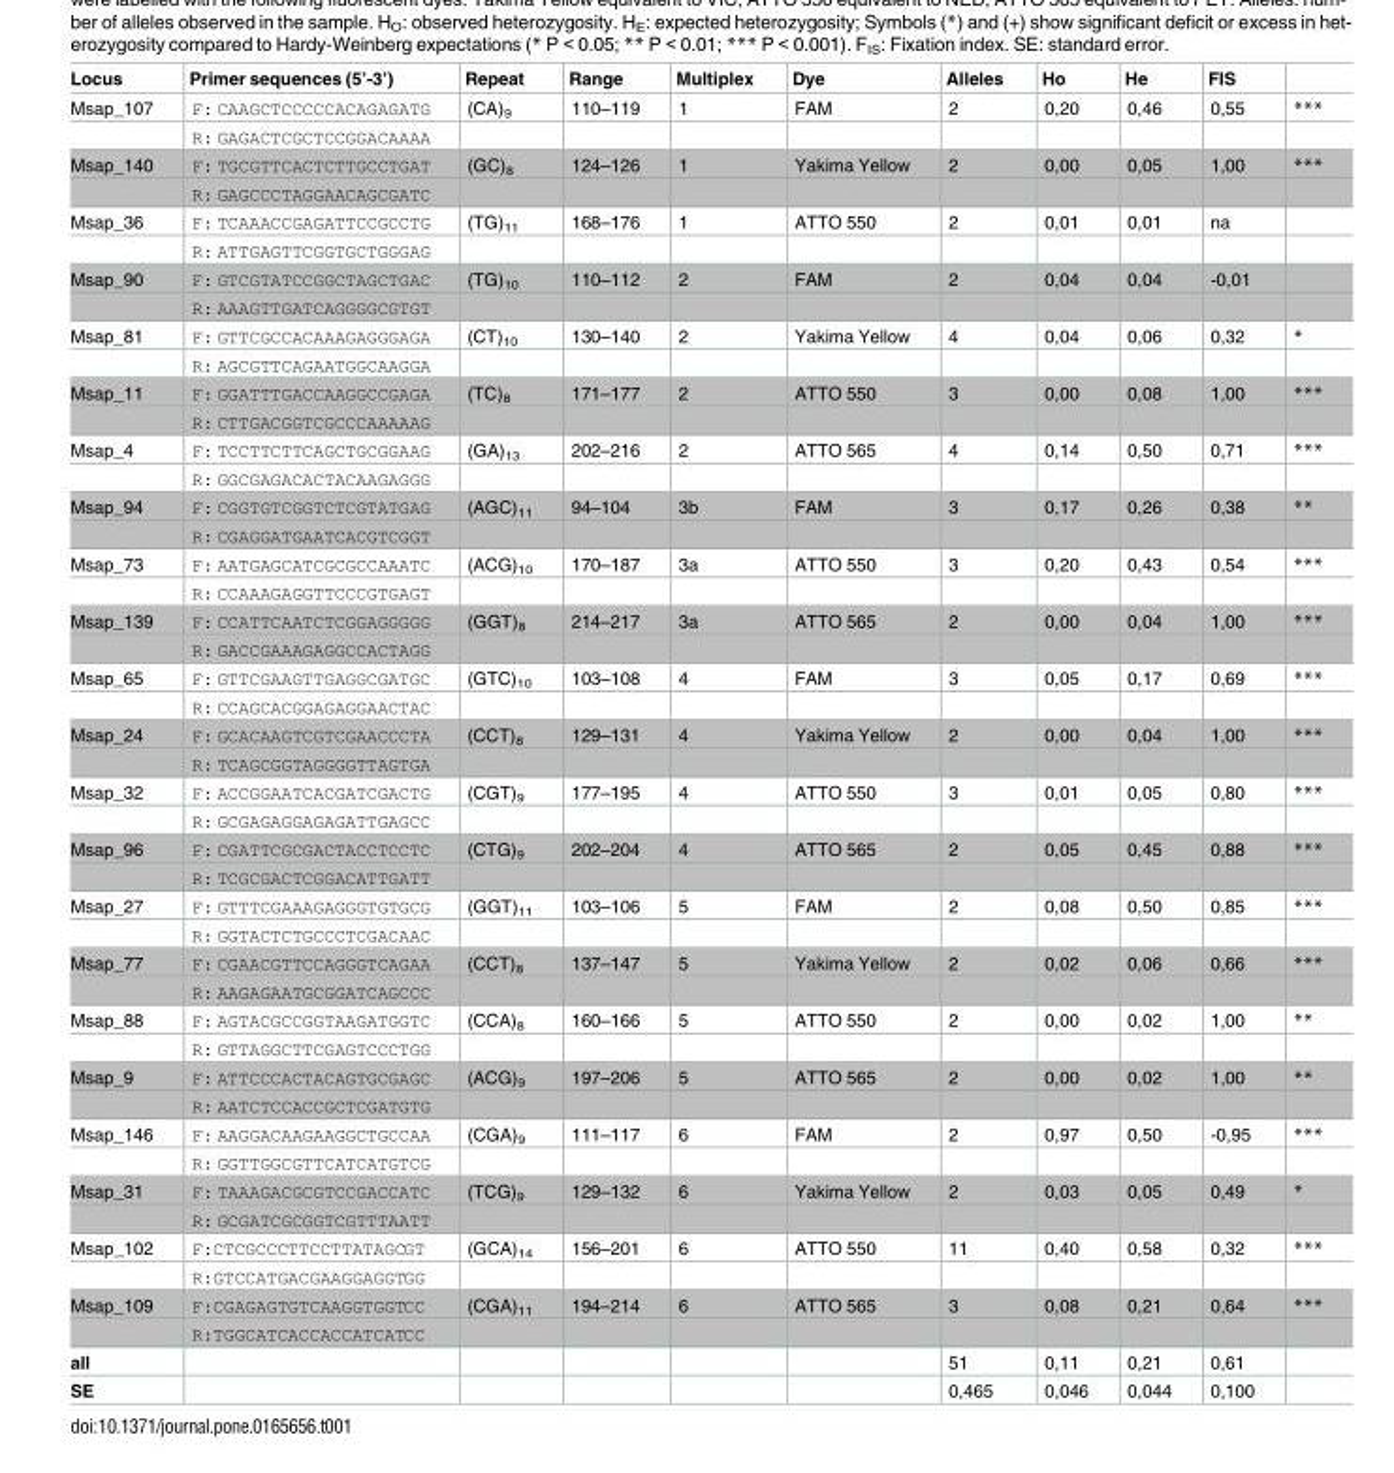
<table><thead><tr><td>Locus</td><td>Primer sequences (5’-3’)</td><td>Repeat</td><td>Range</td><td>Multiplex</td><td>Dye</td><td>Alleles</td><td>Ho</td><td>He</td><td>FIS</td><td></td></tr></thead><tbody><tr><td rowspan="2">Msap_107</td><td>F: CAAGCTCCCCCACAGAGATG</td><td>(CA)<sub>9</sub></td><td>110–119</td><td>1</td><td>FAM</td><td>2</td><td>0,20</td><td>0,46</td><td>0,55</td><td>***</td></tr><tr><td>R: GAGACTCGCTCCGGACAAAA</td><td></td><td></td><td></td><td></td><td></td><td></td><td></td><td></td><td></td></tr><tr><td rowspan="2">Msap_140</td><td>F: TGCGTTCACTCTTGCCTGAT</td><td>(GC)<sub>8</sub></td><td>124–126</td><td>1</td><td>Yakima Yellow</td><td>2</td><td>0,00</td><td>0,05</td><td>1,00</td><td>***</td></tr><tr><td>R: GAGCCCTAGGAACAGCGATC</td><td></td><td></td><td></td><td></td><td></td><td></td><td></td><td></td><td></td></tr><tr><td rowspan="2">Msap_36</td><td>F: TCAAACCGAGATTCCGCCTG</td><td>(TG)<sub>11</sub></td><td>168–176</td><td>1</td><td>ATTO 550</td><td>2</td><td>0,01</td><td>0,01</td><td>na</td><td></td></tr><tr><td>R: ATTGAGTTCGGTGCTGGGAG</td><td></td><td></td><td></td><td></td><td></td><td></td><td></td><td></td><td></td></tr><tr><td rowspan="2">Msap_90</td><td>F: GTCGTATCCGGCTAGCTGAC</td><td>(TG)<sub>10</sub></td><td>110–112</td><td>2</td><td>FAM</td><td>2</td><td>0,04</td><td>0,04</td><td>-0,01</td><td></td></tr><tr><td>R: AAAGTTGATCAGGGGCGTGT</td><td></td><td></td><td></td><td></td><td></td><td></td><td></td><td></td><td></td></tr><tr><td rowspan="2">Msap_81</td><td>F: GTTCGCCACAAAGAGGGAGA</td><td>(CT)<sub>10</sub></td><td>130–140</td><td>2</td><td>Yakima Yellow</td><td>4</td><td>0,04</td><td>0,06</td><td>0,32</td><td>*</td></tr><tr><td>R: AGCGTTCAGAATGGCAAGGA</td><td></td><td></td><td></td><td></td><td></td><td></td><td></td><td></td><td></td></tr><tr><td rowspan="2">Msap_11</td><td>F: GGATTTGACCAAGGCCGAGA</td><td>(TC)<sub>8</sub></td><td>171–177</td><td>2</td><td>ATTO 550</td><td>3</td><td>0,00</td><td>0,08</td><td>1,00</td><td>***</td></tr><tr><td>R: CTTGACGGTCGCCCAAAAAG</td><td></td><td></td><td></td><td></td><td></td><td></td><td></td><td></td><td></td></tr><tr><td rowspan="2">Msap_4</td><td>F: TCCTTCTTCAGCTGCGGAAG</td><td>(GA)<sub>13</sub></td><td>202–216</td><td>2</td><td>ATTO 565</td><td>4</td><td>0,14</td><td>0,50</td><td>0,71</td><td>***</td></tr><tr><td>R: GGCGAGACACTACAAGAGGG</td><td></td><td></td><td></td><td></td><td></td><td></td><td></td><td></td><td></td></tr><tr><td rowspan="2">Msap_94</td><td>F: CGGTGTCGGTCTCGTATGAG</td><td>(AGC)<sub>11</sub></td><td>94–104</td><td>3b</td><td>FAM</td><td>3</td><td>0,17</td><td>0,26</td><td>0,38</td><td>**</td></tr><tr><td>R: CGAGGATGAATCACGTCGGT</td><td></td><td></td><td></td><td></td><td></td><td></td><td></td><td></td><td></td></tr><tr><td rowspan="2">Msap_73</td><td>F: AATGAGCATCGCGCCAAATC</td><td>(ACG)<sub>10</sub></td><td>170–187</td><td>3a</td><td>ATTO 550</td><td>3</td><td>0,20</td><td>0,43</td><td>0,54</td><td>***</td></tr><tr><td>R: CCAAAGAGGTTCCCGTGAGT</td><td></td><td></td><td></td><td></td><td></td><td></td><td></td><td></td><td></td></tr><tr><td rowspan="2">Msap_139</td><td>F: CCATTCAATCTCGGAGGGGG</td><td>(GGT)<sub>8</sub></td><td>214–217</td><td>3a</td><td>ATTO 565</td><td>2</td><td>0,00</td><td>0,04</td><td>1,00</td><td>***</td></tr><tr><td>R: GACCGAAAGAGGCCACTAGG</td><td></td><td></td><td></td><td></td><td></td><td></td><td></td><td></td><td></td></tr><tr><td rowspan="2">Msap_65</td><td>F: GTTCGAAGTTGAGGCGATGC</td><td>(GTC)<sub>10</sub></td><td>103–108</td><td>4</td><td>FAM</td><td>3</td><td>0,05</td><td>0,17</td><td>0,69</td><td>***</td></tr><tr><td>R: CCAGCACGGAGAGGAACTAC</td><td></td><td></td><td></td><td></td><td></td><td></td><td></td><td></td><td></td></tr><tr><td rowspan="2">Msap_24</td><td>F: GCACAAGTCGTCGAACCCTA</td><td>(CCT)<sub>8</sub></td><td>129–131</td><td>4</td><td>Yakima Yellow</td><td>2</td><td>0,00</td><td>0,04</td><td>1,00</td><td>***</td></tr><tr><td>R: TCAGCGGTAGGGGTTAGTGA</td><td></td><td></td><td></td><td></td><td></td><td></td><td></td><td></td><td></td></tr><tr><td rowspan="2">Msap_32</td><td>F: ACCGGAATCACGATCGACTG</td><td>(CGT)<sub>9</sub></td><td>177–195</td><td>4</td><td>ATTO 550</td><td>3</td><td>0,01</td><td>0,05</td><td>0,80</td><td>***</td></tr><tr><td>R: GCGAGAGGAGAGATTGAGCC</td><td></td><td></td><td></td><td></td><td></td><td></td><td></td><td></td><td></td></tr><tr><td rowspan="2">Msap_96</td><td>F: CGATTCGCGACTACCTCCTC</td><td>(CTG)<sub>9</sub></td><td>202–204</td><td>4</td><td>ATTO 565</td><td>2</td><td>0,05</td><td>0,45</td><td>0,88</td><td>***</td></tr><tr><td>R: TCGCGACTCGGACATTGATT</td><td></td><td></td><td></td><td></td><td></td><td></td><td></td><td></td><td></td></tr><tr><td rowspan="2">Msap_27</td><td>F: GTTTCGAAAGAGGGTGTGCG</td><td>(GGT)<sub>11</sub></td><td>103–106</td><td>5</td><td>FAM</td><td>2</td><td>0,08</td><td>0,50</td><td>0,85</td><td>***</td></tr><tr><td>R: GGTACTCTGCCCTCGACAAC</td><td></td><td></td><td></td><td></td><td></td><td></td><td></td><td></td><td></td></tr><tr><td rowspan="2">Msap_77</td><td>F: CGAACGTTCCAGGGTCAGAA</td><td>(CCT)<sub>8</sub></td><td>137–147</td><td>5</td><td>Yakima Yellow</td><td>2</td><td>0,02</td><td>0,06</td><td>0,66</td><td>***</td></tr><tr><td>R: AAGAGAATGCGGATCAGCCC</td><td></td><td></td><td></td><td></td><td></td><td></td><td></td><td></td><td></td></tr><tr><td rowspan="2">Msap_88</td><td>F: AGTACGCCGGTAAGATGGTC</td><td>(CCA)<sub>8</sub></td><td>160–166</td><td>5</td><td>ATTO 550</td><td>2</td><td>0,00</td><td>0,02</td><td>1,00</td><td>**</td></tr><tr><td>R: GTTAGGCTTCGAGTCCCTGG</td><td></td><td></td><td></td><td></td><td></td><td></td><td></td><td></td><td></td></tr><tr><td rowspan="2">Msap_9</td><td>F: ATTCCCACTACAGTGCGAGC</td><td>(ACG)<sub>9</sub></td><td>197–206</td><td>5</td><td>ATTO 565</td><td>2</td><td>0,00</td><td>0,02</td><td>1,00</td><td>**</td></tr><tr><td>R: AATCTCCACCGCTCGATGTG</td><td></td><td></td><td></td><td></td><td></td><td></td><td></td><td></td><td></td></tr><tr><td rowspan="2">Msap_146</td><td>F: AAGGACAAGAAGGCTGCCAA</td><td>(CGA)<sub>9</sub></td><td>111–117</td><td>6</td><td>FAM</td><td>2</td><td>0,97</td><td>0,50</td><td>-0,95</td><td>***</td></tr><tr><td>R: GGTTGGCGTTCATCATGTCG</td><td></td><td></td><td></td><td></td><td></td><td></td><td></td><td></td><td></td></tr><tr><td rowspan="2">Msap_31</td><td>F: TAAAGACGCGTCCGACCATC</td><td>(TCG)<sub>9</sub></td><td>129–132</td><td>6</td><td>Yakima Yellow</td><td>2</td><td>0,03</td><td>0,05</td><td>0,49</td><td>*</td></tr><tr><td>R: GCGATCGCGGTCGTTTAATT</td><td></td><td></td><td></td><td></td><td></td><td></td><td></td><td></td><td></td></tr><tr><td rowspan="2">Msap_102</td><td>F:CTCGCCCTTCCTTATAGCGT</td><td>(GCA)<sub>14</sub></td><td>156–201</td><td>6</td><td>ATTO 550</td><td>11</td><td>0,40</td><td>0,58</td><td>0,32</td><td>***</td></tr><tr><td>R:GTCCATGACGAAGGAGGTGG</td><td></td><td></td><td></td><td></td><td></td><td></td><td></td><td></td><td></td></tr><tr><td rowspan="2">Msap_109</td><td>F:CGAGAGTGTCAAGGTGGTCC</td><td>(CGA)<sub>11</sub></td><td>194–214</td><td>6</td><td>ATTO 565</td><td>3</td><td>0,08</td><td>0,21</td><td>0,64</td><td>***</td></tr><tr><td>R:TGGCATCACCACCATCATCC</td><td></td><td></td><td></td><td></td><td></td><td></td><td></td><td></td><td></td></tr><tr><td>all</td><td></td><td></td><td></td><td></td><td></td><td>51</td><td>0,11</td><td>0,21</td><td>0,61</td><td></td></tr><tr><td>SE</td><td></td><td></td><td></td><td></td><td></td><td>0,465</td><td>0,046</td><td>0,044</td><td>0,100</td><td></td></tr></tbody></table>